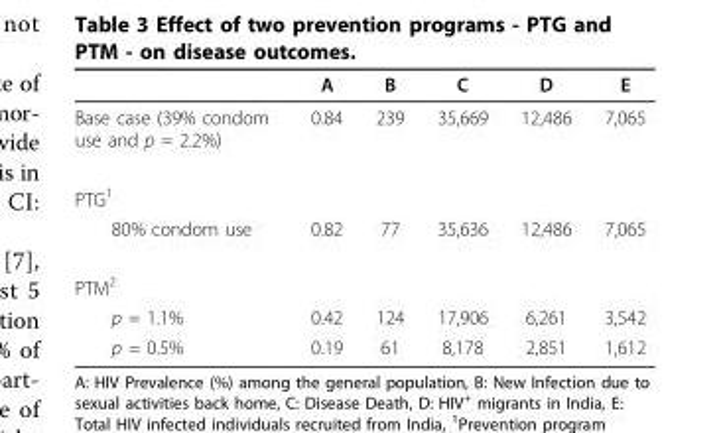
<table><thead><tr><td></td><td>A</td><td>B</td><td>C</td><td>D</td><td>E</td></tr></thead><tbody><tr><td>Base case (39% condom use and p = 2.2%)</td><td>0.84</td><td>239</td><td>35,669</td><td>12,486</td><td>7,065</td></tr><tr><td colspan="6">PTG<sup>1</sup></td></tr><tr><td>80% condom use</td><td>0.82</td><td>77</td><td>35,636</td><td>12,486</td><td>7,065</td></tr><tr><td colspan="6">PTM<sup>2</sup></td></tr><tr><td>p = 1.1%</td><td>0.42</td><td>124</td><td>17,906</td><td>6,261</td><td>3,542</td></tr><tr><td>p = 0.5%</td><td>0.19</td><td>61</td><td>8,178</td><td>2,851</td><td>1,612</td></tr></tbody></table>